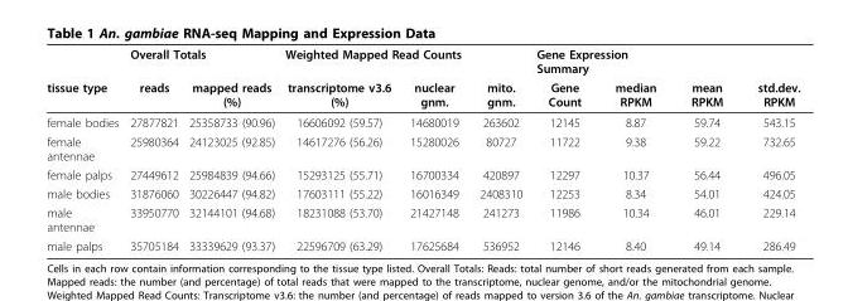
<table><thead><tr><td rowspan="2">tissue type</td><td colspan="2">Overall Totals</td><td colspan="2">Weighted Mapped Read Counts</td><td rowspan="2">mito. gnm.</td><td colspan="2">Gene Expression Summary</td><td rowspan="2">mean RPKM</td><td rowspan="2">std.dev. RPKM</td></tr><tr><td>reads</td><td>mapped reads (%)</td><td>transcriptome v3.6 (%)</td><td>nuclear gnm.</td><td>Gene Count</td><td>median RPKM</td></tr></thead><tbody><tr><td>female bodies</td><td>27877821</td><td>25358733 (90.96)</td><td>16606092 (59.57)</td><td>14680019</td><td>263602</td><td>12145</td><td>8.87</td><td>59.74</td><td>543.15</td></tr><tr><td>female antennae</td><td>25980364</td><td>24123025 (92.85)</td><td>14617276 (56.26)</td><td>15280026</td><td>80727</td><td>11722</td><td>9.38</td><td>59.22</td><td>732.65</td></tr><tr><td>female palps</td><td>27449612</td><td>25984839 (94.66)</td><td>15293125 (55.71)</td><td>16700334</td><td>420897</td><td>12297</td><td>10.37</td><td>56.44</td><td>496.05</td></tr><tr><td>male bodies</td><td>31876060</td><td>30226447 (94.82)</td><td>17603111 (55.22)</td><td>16016349</td><td>2408310</td><td>12253</td><td>8.34</td><td>54.01</td><td>424.05</td></tr><tr><td>male antennae</td><td>33950770</td><td>32144101 (94.68)</td><td>18231088 (53.70)</td><td>21427148</td><td>241273</td><td>11986</td><td>10.34</td><td>46.01</td><td>229.14</td></tr><tr><td>male palps</td><td>35705184</td><td>33339629 (93.37)</td><td>22596709 (63.29)</td><td>17625684</td><td>536952</td><td>12146</td><td>8.40</td><td>49.14</td><td>286.49</td></tr></tbody></table>